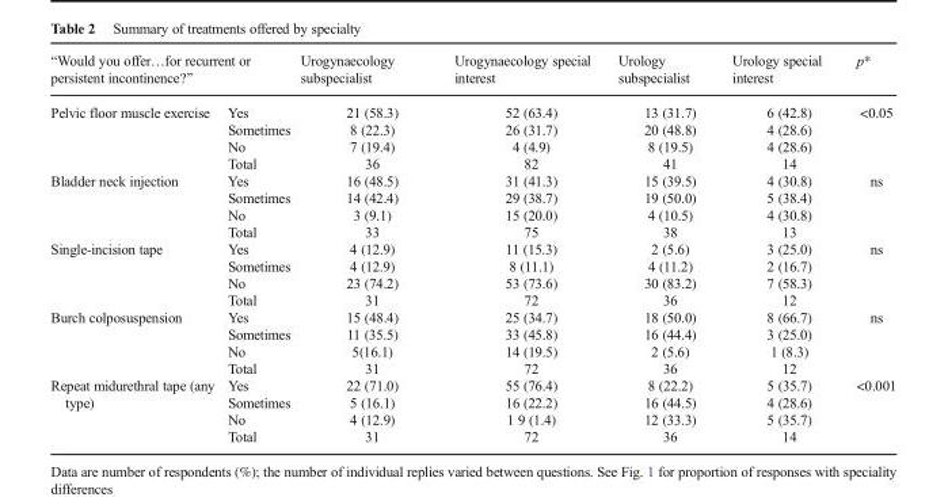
<table><thead><tr><td colspan="2">“Would you offer…for recurrent or persistent incontinence?”</td><td rowspan="2">Urogynaecology subspecialist 21 (58.3) 8 (22.3) 7 (19.4) 36</td><td rowspan="2">Urogynaecology special interest 52 (63.4) 26 (31.7) 4 (4.9) 82</td><td rowspan="2">Urology subspecialist 13 (31.7) 20 (48.8) 8 (19.5) 41</td><td rowspan="2">Urology special interest 6 (42.8) 4 (28.6) 4 (28.6) 14</td><td rowspan="2">p* &lt;0.05</td></tr><tr><td>Pelvic floor muscle exercise</td><td>Yes Sometimes No Total</td></tr></thead><tbody><tr><td>Bladder neck injection</td><td>Yes Sometimes No Total</td><td>16 (48.5) 14 (42.4) 3 (9.1) 33</td><td>31 (41.3) 29 (38.7) 15 (20.0) 75</td><td>15 (39.5) 19 (50.0) 4 (10.5) 38</td><td>4 (30.8) 5 (38.4) 4 (30.8) 13</td><td>ns</td></tr><tr><td>Single-incision tape</td><td>Yes Sometimes No Total</td><td>4 (12.9) 4 (12.9) 23 (74.2) 31</td><td>11 (15.3) 8 (11.1) 53 (73.6) 72</td><td>2 (5.6) 4 (11.2) 30 (83.2) 36</td><td>3 (25.0) 2 (16.7) 7 (58.3) 12</td><td>ns</td></tr><tr><td>Burch colposuspension</td><td>Yes Sometimes No Total</td><td>15 (48.4) 11 (35.5) 5(16.1) 31</td><td>25 (34.7) 33 (45.8) 14 (19.5) 72</td><td>18 (50.0) 16 (44.4) 2 (5.6) 36</td><td>8 (66.7) 3 (25.0) 1 (8.3) 12</td><td>ns</td></tr><tr><td>Repeat midurethral tape (any type)</td><td>Yes Sometimes No Total</td><td>22 (71.0) 5 (16.1) 4 (12.9) 31</td><td>55 (76.4) 16 (22.2) 1 9 (1.4) 72</td><td>8 (22.2) 16 (44.5) 12 (33.3) 36</td><td>5 (35.7) 4 (28.6) 5 (35.7) 14</td><td>&lt;0.001</td></tr></tbody></table>